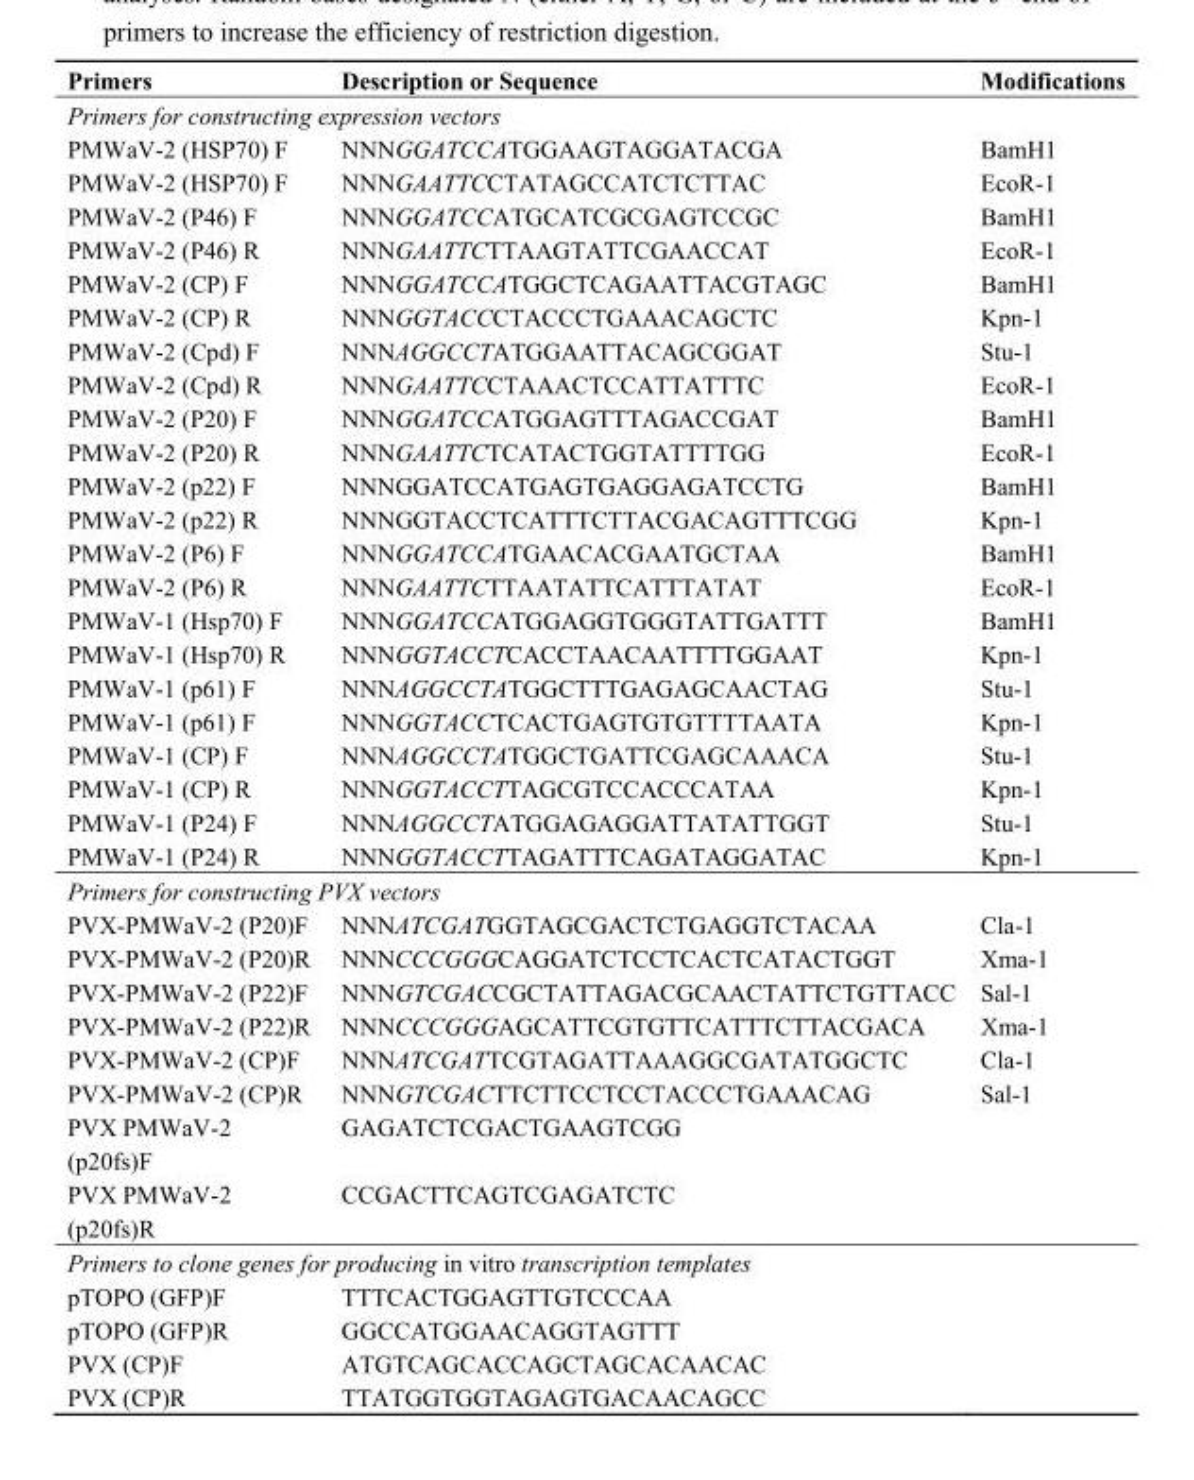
<table><thead><tr><td>Primers</td><td>Description or Sequence</td><td>Modifications</td></tr></thead><tbody><tr><td colspan="3">Primers for constructing expression vectors</td></tr><tr><td>PMWaV-2 (HSP70) F</td><td>NNNGGATCCATGGAAGTAGGATACGA</td><td>BamH1</td></tr><tr><td>PMWaV-2 (HSP70) F</td><td>NNNGAATTCCTATAGCCATCTCTTAC</td><td>EcoR-1</td></tr><tr><td>PMWaV-2 (P46) F</td><td>NNNGGATCCATGCATCGCGAGTCCGC</td><td>BamH1</td></tr><tr><td>PMWaV-2 (P46) R</td><td>NNNGAATTCTTAAGTATTCGAACCAT</td><td>EcoR-1</td></tr><tr><td>PMWaV-2 (CP) F</td><td>NNNGGATCCATGGCTCAGAATTACGTAGC</td><td>BamH1</td></tr><tr><td>PMWaV-2 (CP) R</td><td>NNNGGTACCCTACCCTGAAACAGCTC</td><td>Kpn-1</td></tr><tr><td>PMWaV-2 (Cpd) F</td><td>NNNAGGCCTATGGAATTACAGCGGAT</td><td>Stu-1</td></tr><tr><td>PMWaV-2 (Cpd) R</td><td>NNNGAATTCCTAAACTCCATTATTTC</td><td>EcoR-1</td></tr><tr><td>PMWaV-2 (P20) F</td><td>NNNGGATCCATGGAGTTTAGACCGAT</td><td>BamH1</td></tr><tr><td>PMWaV-2 (P20) R</td><td>NNNGAATTCTCATACTGGTATTTTGG</td><td>EcoR-1</td></tr><tr><td>PMWaV-2 (p22) F</td><td>NNNGGATCCATGAGTGAGGAGATCCTG</td><td>BamH1</td></tr><tr><td>PMWaV-2 (p22) R</td><td>NNNGGTACCTCATTTCTTACGACAGTTTCGG</td><td>Kpn-1</td></tr><tr><td>PMWaV-2 (P6) F</td><td>NNNGGATCCATGAACACGAATGCTAA</td><td>BamH1</td></tr><tr><td>PMWaV-2 (P6) R</td><td>NNNGAATTCTTAATATTCATTTATAT</td><td>EcoR-1</td></tr><tr><td>PMWaV-1 (Hsp70) F</td><td>NNNGGATCCATGGAGGTGGGTATTGATTT</td><td>BamH1</td></tr><tr><td>PMWaV-1 (Hsp70) R</td><td>NNNGGTACCTCACCTAACAATTTTGGAAT</td><td>Kpn-1</td></tr><tr><td>PMWaV-1 (p61) F</td><td>NNNAGGCCTATGGCTTTGAGAGCAACTAG</td><td>Stu-1</td></tr><tr><td>PMWaV-1 (p61) F</td><td>NNNGGTACCTCACTGAGTGTGTTTTAATA</td><td>Kpn-1</td></tr><tr><td>PMWaV-1 (CP) F</td><td>NNNAGGCCTATGGCTGATTCGAGCAAACA</td><td>Stu-1</td></tr><tr><td>PMWaV-1 (CP) R</td><td>NNNGGTACCTTAGCGTCCACCCATAA</td><td>Kpn-1</td></tr><tr><td>PMWaV-1 (P24) F</td><td>NNNAGGCCTATGGAGAGGATTATATTGGT</td><td>Stu-1</td></tr><tr><td>PMWaV-1 (P24) R</td><td>NNNGGTACCTTAGATTTCAGATAGGATAC</td><td>Kpn-1</td></tr><tr><td colspan="3">Primers for constructing PVX vectors</td></tr><tr><td>PVX-PMWaV-2 (P20)F</td><td>NNNATCGATGGTAGCGACTCTGAGGTCTACAA</td><td>Cla-1</td></tr><tr><td>PVX-PMWaV-2 (P20)R</td><td>NNNCCCGGGCAGGATCTCCTCACTCATACTGGT</td><td>Xma-1</td></tr><tr><td>PVX-PMWaV-2 (P22)F</td><td>NNNGTCGACCGCTATTAGACGCAACTATTCTGTTACC</td><td>Sal-1</td></tr><tr><td>PVX-PMWaV-2 (P22)R</td><td>NNNCCCGGGAGCATTCGTGTTCATTTCTTACGACA</td><td>Xma-1</td></tr><tr><td>PVX-PMWaV-2 (CP)F</td><td>NNNATCGATTCGTAGATTAAAGGCGATATGGCTC</td><td>Cla-1</td></tr><tr><td>PVX-PMWaV-2 (CP)R</td><td>NNNGTCGACTTCTTCCTCCTACCCTGAAACAG</td><td>Sal-1</td></tr><tr><td>PVX PMWaV-2 (p20fs)F</td><td>GAGATCTCGACTGAAGTCGG</td><td></td></tr><tr><td>PVX PMWaV-2 (p20fs)R</td><td>CCGACTTCAGTCGAGATCTC</td><td></td></tr><tr><td colspan="3">Primers to clone genes for producing in vitro transcription templates</td></tr><tr><td>pTOPO (GFP)F</td><td>TTTCACTGGAGTTGTCCCAA</td><td></td></tr><tr><td>pTOPO (GFP)R</td><td>GGCCATGGAACAGGTAGTTT</td><td></td></tr><tr><td>PVX (CP)F</td><td>ATGTCAGCACCAGCTAGCACAACAC</td><td></td></tr><tr><td>PVX (CP)R</td><td>TTATGGTGGTAGAGTGACAACAGCC</td><td></td></tr></tbody></table>